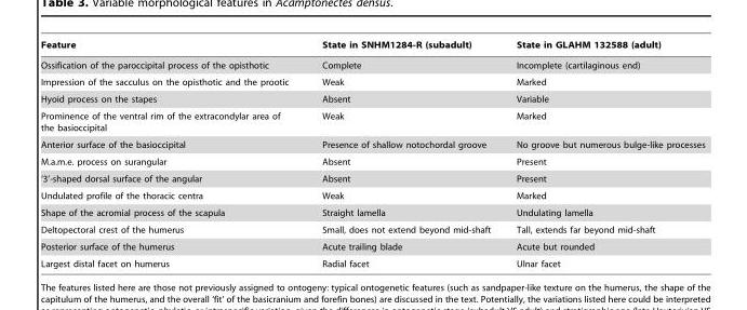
<table><thead><tr><td>Feature</td><td>State in SNHM1284-R (subadult)</td><td>State in GLAHM 132588 (adult)</td></tr></thead><tbody><tr><td>Ossification of the paroccipital process of the opisthotic</td><td>Complete</td><td>Incomplete (cartilaginous end)</td></tr><tr><td>Impression of the sacculus on the opisthotic and the prootic</td><td>Weak</td><td>Marked</td></tr><tr><td>Hyoid process on the stapes</td><td>Absent</td><td>Variable</td></tr><tr><td>Prominence of the ventral rim of the extracondylar area of the basioccipital</td><td>Weak</td><td>Marked</td></tr><tr><td>Anterior surface of the basioccipital</td><td>Presence of shallow notochordal groove</td><td>No groove but numerous bulge-like processes</td></tr><tr><td>M.a.m.e. process on surangular</td><td>Absent</td><td>Present</td></tr><tr><td>‘3’-shaped dorsal surface of the angular</td><td>Absent</td><td>Present</td></tr><tr><td>Undulated profile of the thoracic centra</td><td>Weak</td><td>Marked</td></tr><tr><td>Shape of the acromial process of the scapula</td><td>Straight lamella</td><td>Undulating lamella</td></tr><tr><td>Deltopectoral crest of the humerus</td><td>Small, does not extend beyond mid-shaft</td><td>Tall, extends far beyond mid-shaft</td></tr><tr><td>Posterior surface of the humerus</td><td>Acute trailing blade</td><td>Acute but rounded</td></tr><tr><td>Largest distal facet on humerus</td><td>Radial facet</td><td>Ulnar facet</td></tr></tbody></table>